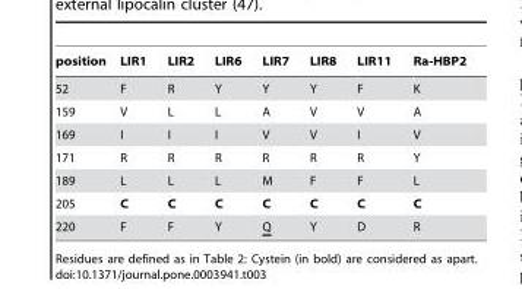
<table><thead><tr><td>position</td><td>LIR1</td><td>LIR2</td><td>LIR6</td><td>LIR7</td><td>LIR8</td><td>LIR11</td><td>Ra-HBP2</td></tr></thead><tbody><tr><td>52</td><td>F</td><td>R</td><td>Y</td><td>Y</td><td>Y</td><td>F</td><td>K</td></tr><tr><td>159</td><td>V</td><td>L</td><td>L</td><td>A</td><td>V</td><td>V</td><td>A</td></tr><tr><td>169</td><td>I</td><td>I</td><td>I</td><td>V</td><td>V</td><td>I</td><td>V</td></tr><tr><td>171</td><td>R</td><td>R</td><td>R</td><td>R</td><td>R</td><td>R</td><td>Y</td></tr><tr><td>189</td><td>L</td><td>L</td><td>L</td><td>M</td><td>F</td><td>F</td><td>L</td></tr><tr><td>205</td><td>C</td><td>C</td><td>C</td><td>C</td><td>C</td><td>C</td><td>C</td></tr><tr><td>220</td><td>F</td><td>F</td><td>Y</td><td>Q</td><td>Y</td><td>D</td><td>R</td></tr></tbody></table>